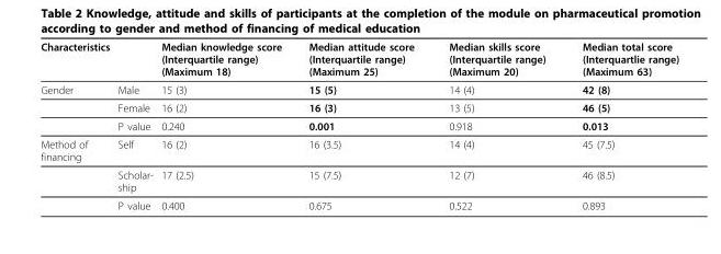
<table><thead><tr><td>Characteristics</td><td></td><td>Median knowledge score (Interquartile range) (Maximum 18)</td><td>Median attitude score (Interquartile range) (Maximum 25)</td><td>Median skills score (Interquartile range) (Maximum 20)</td><td>Median total score (Interquartlie range) (Maximum 63)</td></tr></thead><tbody><tr><td rowspan="3">Gender</td><td>Male</td><td>15 (3)</td><td>15 (5)</td><td>14 (4)</td><td>42 (8)</td></tr><tr><td>Female</td><td>16 (2)</td><td>16 (3)</td><td>13 (5)</td><td>46 (5)</td></tr><tr><td>P value</td><td>0.240</td><td>0.001</td><td>0.918</td><td>0.013</td></tr><tr><td rowspan="3">Method of financing</td><td>Self</td><td>16 (2)</td><td>16 (3.5)</td><td>14 (4)</td><td>45 (7.5)</td></tr><tr><td>Scholar- ship</td><td>17 (2.5)</td><td>15 (7.5)</td><td>12 (7)</td><td>46 (8.5)</td></tr><tr><td>P value</td><td>0.400</td><td>0.675</td><td>0.522</td><td>0.893</td></tr></tbody></table>